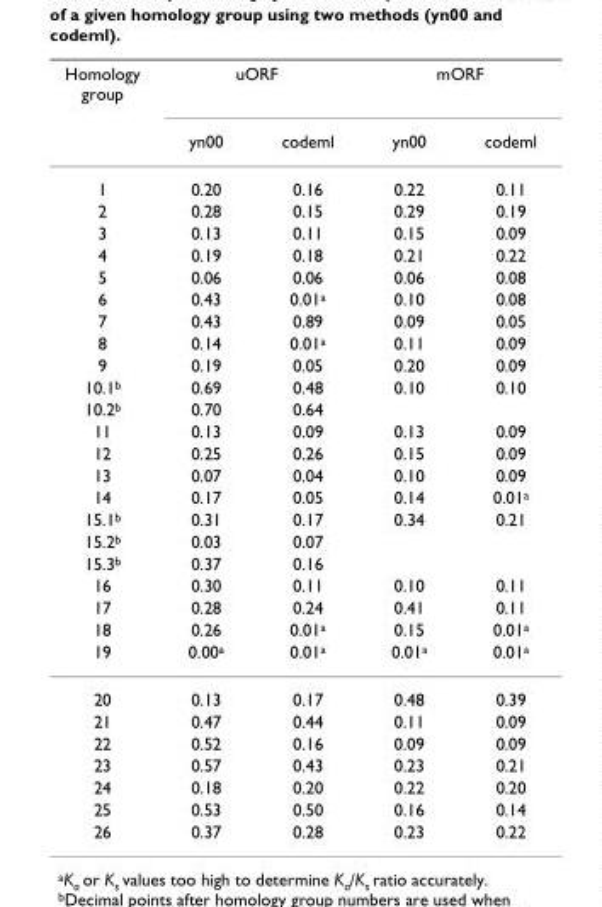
<table><thead><tr><td rowspan="2">Homology group</td><td colspan="2">uORF</td><td colspan="2">mORF</td></tr><tr><td>yn00</td><td>codeml</td><td>yn00</td><td>codeml</td></tr></thead><tbody><tr><td>1</td><td>0.20</td><td>0.16</td><td>0.22</td><td>0.11</td></tr><tr><td>2</td><td>0.28</td><td>0.15</td><td>0.29</td><td>0.19</td></tr><tr><td>3</td><td>0.13</td><td>0.11</td><td>0.15</td><td>0.09</td></tr><tr><td>4</td><td>0.19</td><td>0.18</td><td>0.21</td><td>0.22</td></tr><tr><td>5</td><td>0.06</td><td>0.06</td><td>0.06</td><td>0.08</td></tr><tr><td>6</td><td>0.43</td><td>0.01<sup>a</sup></td><td>0.10</td><td>0.08</td></tr><tr><td>7</td><td>0.43</td><td>0.89</td><td>0.09</td><td>0.05</td></tr><tr><td>8</td><td>0.14</td><td>0.01<sup>a</sup></td><td>0.11</td><td>0.09</td></tr><tr><td>9</td><td>0.19</td><td>0.05</td><td>0.20</td><td>0.09</td></tr><tr><td>10.1<sup>b</sup></td><td>0.69</td><td>0.48</td><td>0.10</td><td>0.10</td></tr><tr><td>10.2<sup>b</sup></td><td>0.70</td><td>0.64</td><td></td><td></td></tr><tr><td>11</td><td>0.13</td><td>0.09</td><td>0.13</td><td>0.09</td></tr><tr><td>12</td><td>0.25</td><td>0.26</td><td>0.15</td><td>0.09</td></tr><tr><td>13</td><td>0.07</td><td>0.04</td><td>0.10</td><td>0.09</td></tr><tr><td>14</td><td>0.17</td><td>0.05</td><td>0.14</td><td>0.01<sup>a</sup></td></tr><tr><td>15.1<sup>b</sup></td><td>0.31</td><td>0.17</td><td>0.34</td><td>0.21</td></tr><tr><td>15.2<sup>b</sup></td><td>0.03</td><td>0.07</td><td></td><td></td></tr><tr><td>15.3<sup>b</sup></td><td>0.37</td><td>0.16</td><td></td><td></td></tr><tr><td>16</td><td>0.30</td><td>0.11</td><td>0.10</td><td>0.11</td></tr><tr><td>17</td><td>0.28</td><td>0.24</td><td>0.41</td><td>0.11</td></tr><tr><td>18</td><td>0.26</td><td>0.01<sup>a</sup></td><td>0.15</td><td>0.01<sup>a</sup></td></tr><tr><td>19</td><td>0.00<sup>a</sup></td><td>0.01<sup>a</sup></td><td>0.01<sup>a</sup></td><td>0.01<sup>a</sup></td></tr><tr><td>20</td><td>0.13</td><td>0.17</td><td>0.48</td><td>0.39</td></tr><tr><td>21</td><td>0.47</td><td>0.44</td><td>0.11</td><td>0.09</td></tr><tr><td>22</td><td>0.52</td><td>0.16</td><td>0.09</td><td>0.09</td></tr><tr><td>23</td><td>0.57</td><td>0.43</td><td>0.23</td><td>0.21</td></tr><tr><td>24</td><td>0.18</td><td>0.20</td><td>0.22</td><td>0.20</td></tr><tr><td>25</td><td>0.53</td><td>0.50</td><td>0.16</td><td>0.14</td></tr><tr><td>26</td><td>0.37</td><td>0.28</td><td>0.23</td><td>0.22</td></tr></tbody></table>